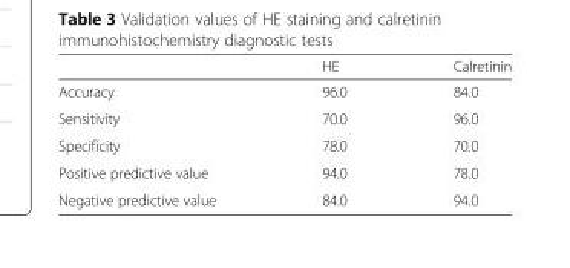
<table><thead><tr><td></td><td>HE</td><td>Calretinin</td></tr></thead><tbody><tr><td>Accuracy</td><td>96.0</td><td>84.0</td></tr><tr><td>Sensitivity</td><td>70.0</td><td>96.0</td></tr><tr><td>Specificity</td><td>78.0</td><td>70.0</td></tr><tr><td>Positive predictive value</td><td>94.0</td><td>78.0</td></tr><tr><td>Negative predictive value</td><td>84.0</td><td>94.0</td></tr></tbody></table>